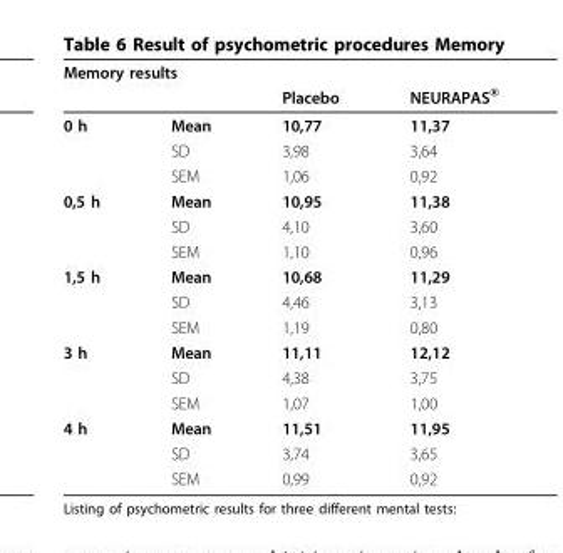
<table><thead><tr><td colspan="4">Memory results</td></tr><tr><td></td><td></td><td>Placebo</td><td>NEURAPAS<sup>®</sup></td></tr></thead><tbody><tr><td rowspan="3">0 h</td><td>Mean</td><td>10,77</td><td>11,37</td></tr><tr><td>SD</td><td>3,98</td><td>3,64</td></tr><tr><td>SEM</td><td>1,06</td><td>0,92</td></tr><tr><td rowspan="3">0,5 h</td><td>Mean</td><td>10,95</td><td>11,38</td></tr><tr><td>SD</td><td>4,10</td><td>3,60</td></tr><tr><td>SEM</td><td>1,10</td><td>0,96</td></tr><tr><td rowspan="3">1,5 h</td><td>Mean</td><td>10,68</td><td>11,29</td></tr><tr><td>SD</td><td>4,46</td><td>3,13</td></tr><tr><td>SEM</td><td>1,19</td><td>0,80</td></tr><tr><td rowspan="3">3 h</td><td>Mean</td><td>11,11</td><td>12,12</td></tr><tr><td>SD</td><td>4,38</td><td>3,75</td></tr><tr><td>SEM</td><td>1,07</td><td>1,00</td></tr><tr><td rowspan="3">4 h</td><td>Mean</td><td>11,51</td><td>11,95</td></tr><tr><td>SD</td><td>3,74</td><td>3,65</td></tr><tr><td>SEM</td><td>0,99</td><td>0,92</td></tr></tbody></table>